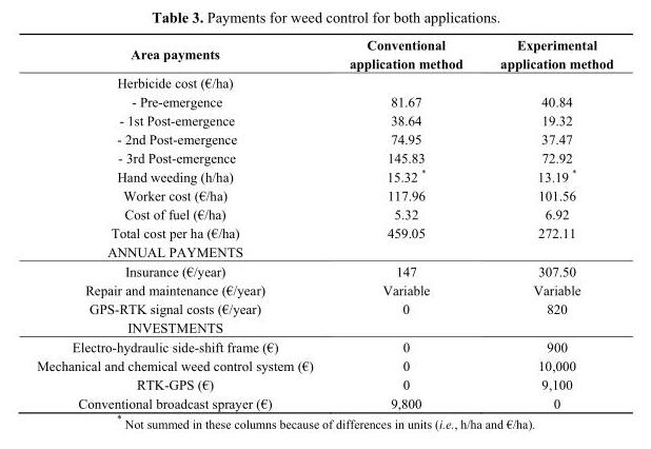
<table><thead><tr><td>Area payments</td><td>Conventional application method</td><td>Experimental application method</td></tr></thead><tbody><tr><td colspan="3">Herbicide cost (€/ha)</td></tr><tr><td>- Pre-emergence</td><td>81.67</td><td>40.84</td></tr><tr><td>- 1st Post-emergence</td><td>38.64</td><td>19.32</td></tr><tr><td>- 2nd Post-emergence</td><td>74.95</td><td>37.47</td></tr><tr><td>- 3rd Post-emergence</td><td>145.83</td><td>72.92</td></tr><tr><td>Hand weeding (h/ha)</td><td>15.32 *</td><td>13.19 *</td></tr><tr><td>Worker cost (€/ha)</td><td>117.96</td><td>101.56</td></tr><tr><td>Cost of fuel (€/ha)</td><td>5.32</td><td>6.92</td></tr><tr><td>Total cost per ha (€/ha)</td><td>459.05</td><td>272.11</td></tr><tr><td colspan="3">ANNUAL PAYMENTS</td></tr><tr><td>Insurance (€/year)</td><td>147</td><td>307.50</td></tr><tr><td>Repair and maintenance (€/year)</td><td>Variable</td><td>Variable</td></tr><tr><td>GPS-RTK signal costs (€/year)</td><td>0</td><td>820</td></tr><tr><td colspan="3">INVESTMENTS</td></tr><tr><td>Electro-hydraulic side-shift frame (€)</td><td>0</td><td>900</td></tr><tr><td>Mechanical and chemical weed control system (€)</td><td>0</td><td>10,000</td></tr><tr><td>RTK-GPS (€)</td><td>0</td><td>9,100</td></tr><tr><td>Conventional broadcast sprayer (€)</td><td>9,800</td><td>0</td></tr></tbody></table>